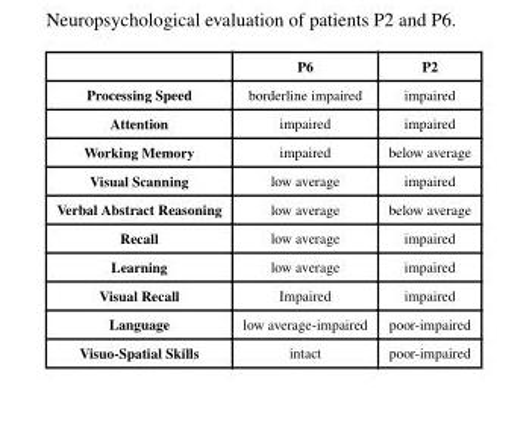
<table><thead><tr><td></td><td>P6</td><td>P2</td></tr></thead><tbody><tr><td>Processing Speed</td><td>borderline impaired</td><td>impaired</td></tr><tr><td>Attention</td><td>impaired</td><td>impaired</td></tr><tr><td>Working Memory</td><td>impaired</td><td>below average</td></tr><tr><td>Visual Scanning</td><td>low average</td><td>impaired</td></tr><tr><td>Verbal Abstract Reasoning</td><td>low average</td><td>below average</td></tr><tr><td>Recall</td><td>low average</td><td>impaired</td></tr><tr><td>Learning</td><td>low average</td><td>impaired</td></tr><tr><td>Visual Recall</td><td>Impaired</td><td>impaired</td></tr><tr><td>Language</td><td>low average-impaired</td><td>poor-impaired</td></tr><tr><td>Visuo-Spatial Skills</td><td>intact</td><td>poor-impaired</td></tr></tbody></table>